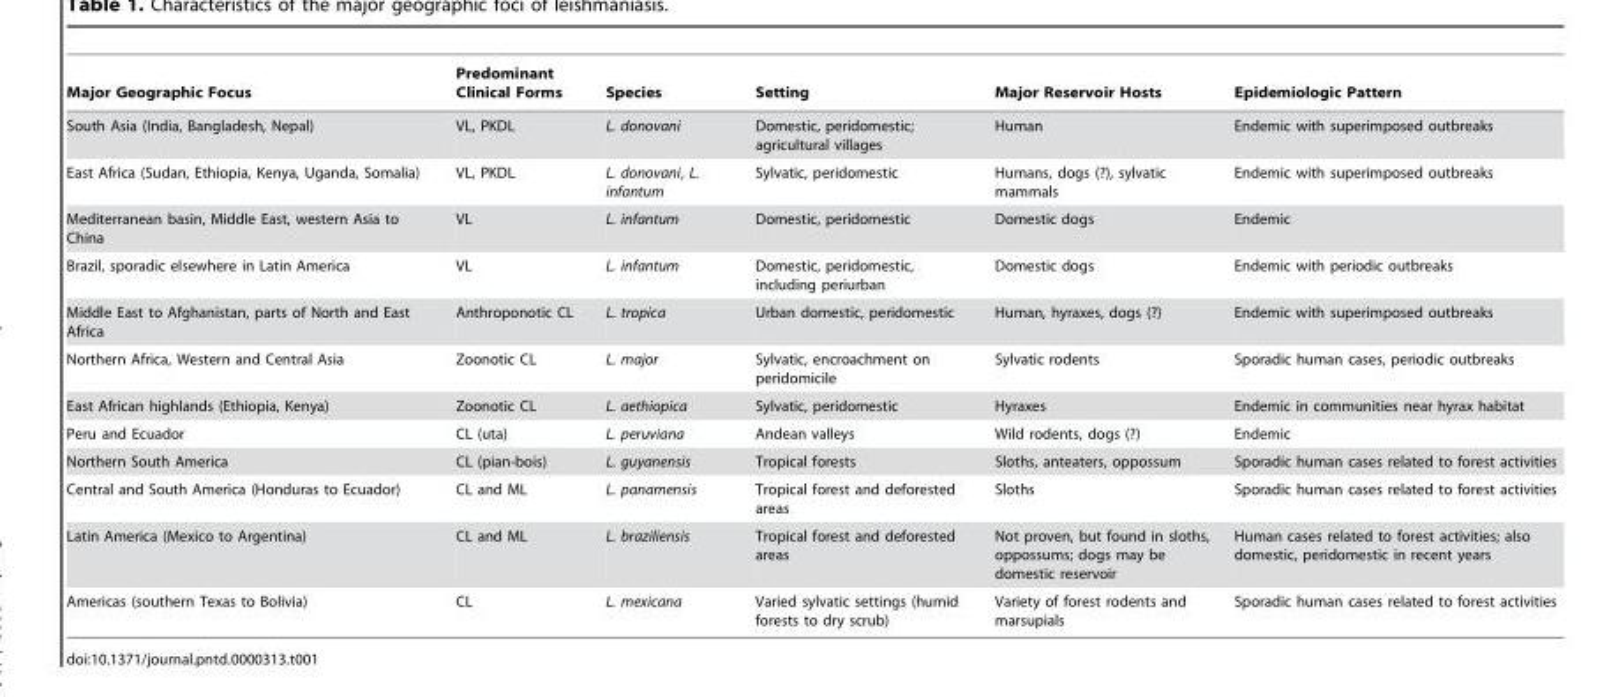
<table><thead><tr><td>Major Geographic Focus</td><td>Predominant Clinical Forms</td><td>Species</td><td>Setting</td><td>Major Reservoir Hosts</td><td>Epidemiologic Pattern</td></tr></thead><tbody><tr><td>South Asia (India, Bangladesh, Nepal)</td><td>VL, PKDL</td><td>L. donovani</td><td>Domestic, peridomestic; agricultural villages</td><td>Human</td><td>Endemic with superimposed outbreaks</td></tr><tr><td>East Africa (Sudan, Ethiopia, Kenya, Uganda, Somalia)</td><td>VL, PKDL</td><td>L. donovani, L. infantum</td><td>Sylvatic, peridomestic</td><td>Humans, dogs (?), sylvatic mammals</td><td>Endemic with superimposed outbreaks</td></tr><tr><td>Mediterranean basin, Middle East, western Asia to China</td><td>VL</td><td>L. infantum</td><td>Domestic, peridomestic</td><td>Domestic dogs</td><td>Endemic</td></tr><tr><td>Brazil, sporadic elsewhere in Latin America</td><td>VL</td><td>L. infantum</td><td>Domestic, peridomestic, including periurban</td><td>Domestic dogs</td><td>Endemic with periodic outbreaks</td></tr><tr><td>Middle East to Afghanistan, parts of North and East Africa</td><td>Anthroponotic CL</td><td>L. tropica</td><td>Urban domestic, peridomestic</td><td>Human, hyraxes, dogs (?)</td><td>Endemic with superimposed outbreaks</td></tr><tr><td>Northern Africa, Western and Central Asia</td><td>Zoonotic CL</td><td>L. major</td><td>Sylvatic, encroachment on peridomicile</td><td>Sylvatic rodents</td><td>Sporadic human cases, periodic outbreaks</td></tr><tr><td>East African highlands (Ethiopia, Kenya)</td><td>Zoonotic CL</td><td>L. aethiopica</td><td>Sylvatic, peridomestic</td><td>Hyraxes</td><td>Endemic in communities near hyrax habitat</td></tr><tr><td>Peru and Ecuador</td><td>CL (uta)</td><td>L. peruviana</td><td>Andean valleys</td><td>Wild rodents, dogs (?)</td><td>Endemic</td></tr><tr><td>Northern South America</td><td>CL (pian-bois)</td><td>L. guyanensis</td><td>Tropical forests</td><td>Sloths, anteaters, oppossum</td><td>Sporadic human cases related to forest activities</td></tr><tr><td>Central and South America (Honduras to Ecuador)</td><td>CL and ML</td><td>L. panamensis</td><td>Tropical forest and deforested areas</td><td>Sloths</td><td>Sporadic human cases related to forest activities</td></tr><tr><td>Latin America (Mexico to Argentina)</td><td>CL and ML</td><td>L. braziliensis</td><td>Tropical forest and deforested areas</td><td>Not proven, but found in sloths, oppossums; dogs may be domestic reservoir</td><td>Human cases related to forest activities; also domestic, peridomestic in recent years</td></tr><tr><td>Americas (southern Texas to Bolivia)</td><td>CL</td><td>L. mexicana</td><td>Varied sylvatic settings (humid forests to dry scrub)</td><td>Variety of forest rodents and marsupials</td><td>Sporadic human cases related to forest activities</td></tr></tbody></table>